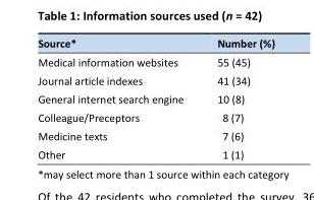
<table><thead><tr><td>Source*</td><td>Number (%)</td></tr></thead><tbody><tr><td>Medical information websites</td><td>55 (45)</td></tr><tr><td>Journal article indexes</td><td>41 (34)</td></tr><tr><td>General internet search engine</td><td>10 (8)</td></tr><tr><td>Colleague/Preceptors</td><td>8 (7)</td></tr><tr><td>Medicine texts</td><td>7 (6)</td></tr><tr><td>Other</td><td>1 (1)</td></tr></tbody></table>